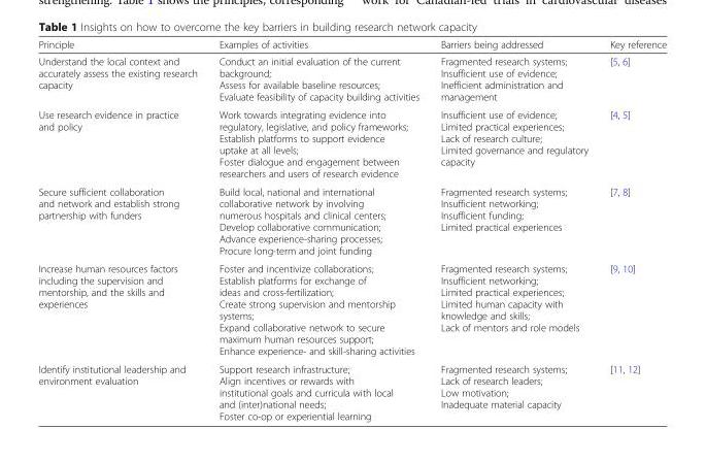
<table><thead><tr><td>Principle</td><td>Examples of activities</td><td>Barriers being addressed</td><td>Key reference</td></tr></thead><tbody><tr><td>Understand the local context and accurately assess the existing research capacity</td><td>Conduct an initial evaluation of the current background; Assess for available baseline resources; Evaluate feasibility of capacity building activities</td><td>Fragmented research systems; Insufficient use of evidence; Inefficient administration and management</td><td>[5, 6]</td></tr><tr><td>Use research evidence in practice and policy</td><td>Work towards integrating evidence into regulatory, legislative, and policy frameworks; Establish platforms to support evidence uptake at all levels; Foster dialogue and engagement between researchers and users of research evidence</td><td>Insufficient use of evidence; Limited practical experiences; Lack of research culture; Limited governance and regulatory capacity</td><td>[4, 5]</td></tr><tr><td>Secure sufficient collaboration and network and establish strong partnership with funders</td><td>Build local, national and international collaborative network by involving numerous hospitals and clinical centers; Develop collaborative communication; Advance experience-sharing processes; Procure long-term and joint funding</td><td>Fragmented research systems; Insufficient networking; Insufficient funding; Limited practical experiences</td><td>[7, 8]</td></tr><tr><td>Increase human resources factors including the supervision and mentorship, and the skills and experiences</td><td>Foster and incentivize collaborations; Establish platforms for exchange of ideas and cross-fertilization; Create strong supervision and mentorship systems; Expand collaborative network to secure maximum human resources support; Enhance experience- and skill-sharing activities</td><td>Fragmented research systems; Insufficient networking; Limited practical experiences; Limited human capacity with knowledge and skills; Lack of mentors and role models</td><td>[9, 10]</td></tr><tr><td>Identify institutional leadership and environment evaluation</td><td>Support research infrastructure; Align incentives or rewards with institutional goals and curricula with local and (inter)national needs; Foster co-op or experiential learning</td><td>Fragmented research systems; Lack of research leaders; Low motivation; Inadequate material capacity</td><td>[11, 12]</td></tr></tbody></table>